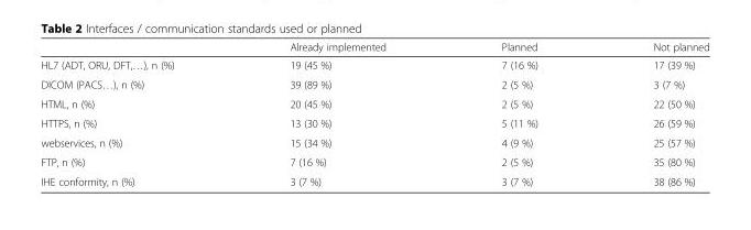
<table><thead><tr><td></td><td>Already implemented</td><td>Planned</td><td>Not planned</td></tr></thead><tbody><tr><td>HL7 (ADT, ORU, DFT,…), n (%)</td><td>19 (45 %)</td><td>7 (16 %)</td><td>17 (39 %)</td></tr><tr><td>DICOM (PACS…), n (%)</td><td>39 (89 %)</td><td>2 (5 %)</td><td>3 (7 %)</td></tr><tr><td>HTML, n (%)</td><td>20 (45 %)</td><td>2 (5 %)</td><td>22 (50 %)</td></tr><tr><td>HTTPS, n (%)</td><td>13 (30 %)</td><td>5 (11 %)</td><td>26 (59 %)</td></tr><tr><td>webservices, n (%)</td><td>15 (34 %)</td><td>4 (9 %)</td><td>25 (57 %)</td></tr><tr><td>FTP, n (%)</td><td>7 (16 %)</td><td>2 (5 %)</td><td>35 (80 %)</td></tr><tr><td>IHE conformity, n (%)</td><td>3 (7 %)</td><td>3 (7 %)</td><td>38 (86 %)</td></tr></tbody></table>